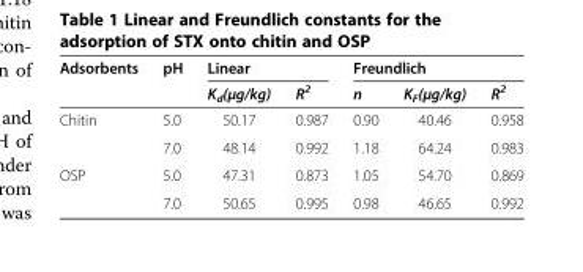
<table><thead><tr><td rowspan="2">Adsorbents</td><td rowspan="2">pH</td><td colspan="2">Linear</td><td colspan="3">Freundlich</td></tr><tr><td>K<sub>d</sub>(μg/kg)</td><td>R<sup>2</sup></td><td>n</td><td>K<sub>F</sub>(μg/kg)</td><td>R<sup>2</sup></td></tr></thead><tbody><tr><td rowspan="2">Chitin</td><td>5.0</td><td>50.17</td><td>0.987</td><td>0.90</td><td>40.46</td><td>0.958</td></tr><tr><td>7.0</td><td>48.14</td><td>0.992</td><td>1.18</td><td>64.24</td><td>0.983</td></tr><tr><td rowspan="2">OSP</td><td>5.0</td><td>47.31</td><td>0.873</td><td>1.05</td><td>54.70</td><td>0.869</td></tr><tr><td>7.0</td><td>50.65</td><td>0.995</td><td>0.98</td><td>46.65</td><td>0.992</td></tr></tbody></table>